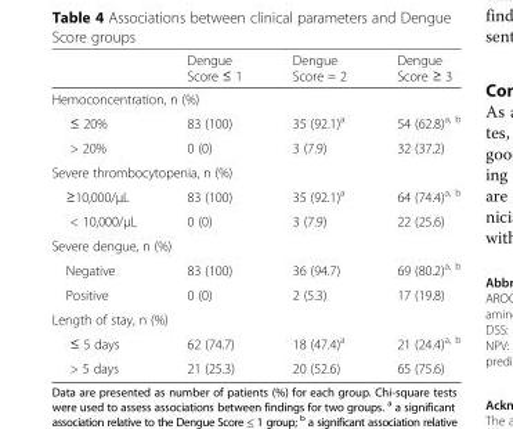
<table><thead><tr><td></td><td>Dengue Score ≤ 1</td><td>Dengue Score = 2</td><td>Dengue Score ≥ 3</td></tr></thead><tbody><tr><td colspan="4">Hemoconcentration, n (%)</td></tr><tr><td>≤ 20%</td><td>83 (100)</td><td>35 (92.1)<sup>a</sup></td><td>54 (62.8)<sup>a, b</sup></td></tr><tr><td>&gt; 20%</td><td>0 (0)</td><td>3 (7.9)</td><td>32 (37.2)</td></tr><tr><td colspan="4">Severe thrombocytopenia, n (%)</td></tr><tr><td>≥10,000/μL</td><td>83 (100)</td><td>35 (92.1)<sup>a</sup></td><td>64 (74.4)<sup>a, b</sup></td></tr><tr><td>&lt; 10,000/μL</td><td>0 (0)</td><td>3 (7.9)</td><td>22 (25.6)</td></tr><tr><td colspan="4">Severe dengue, n (%)</td></tr><tr><td>Negative</td><td>83 (100)</td><td>36 (94.7)</td><td>69 (80.2)<sup>a, b</sup></td></tr><tr><td>Positive</td><td>0 (0)</td><td>2 (5.3)</td><td>17 (19.8)</td></tr><tr><td colspan="4">Length of stay, n (%)</td></tr><tr><td>≤ 5 days</td><td>62 (74.7)</td><td>18 (47.4)<sup>a</sup></td><td>21 (24.4)<sup>a, b</sup></td></tr><tr><td>&gt; 5 days</td><td>21 (25.3)</td><td>20 (52.6)</td><td>65 (75.6)</td></tr></tbody></table>